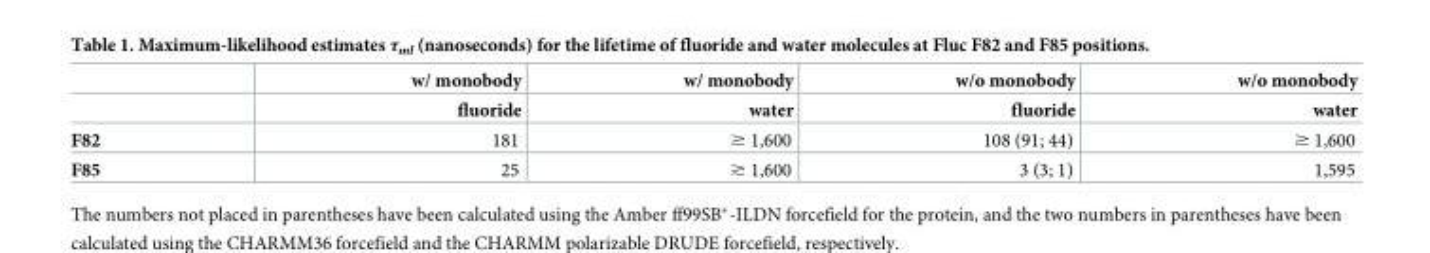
<table><thead><tr><td rowspan="2"></td><td rowspan="2">w/ monobody fluoride</td><td rowspan="2">w/ monobody water</td><td rowspan="2">w/o monobody fluoride</td><td rowspan="2">w/o monobody water</td></tr><tr></tr></thead><tbody><tr><td>F82</td><td>181</td><td>≳ 1,600</td><td>108 (91; 44)</td><td>≳ 1,600</td></tr><tr><td>F85</td><td>25</td><td>≳ 1,600</td><td>3 (3; 1)</td><td>1,595</td></tr></tbody></table>